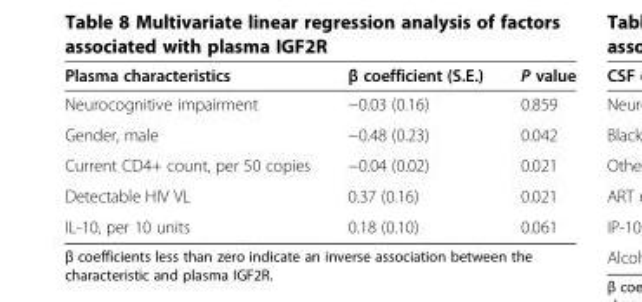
<table><thead><tr><td>Plasma characteristics</td><td>β coefficient (S.E.)</td><td>P value</td></tr></thead><tbody><tr><td>Neurocognitive impairment</td><td>−0.03 (0.16)</td><td>0.859</td></tr><tr><td>Gender, male</td><td>−0.48 (0.23)</td><td>0.042</td></tr><tr><td>Current CD4+ count, per 50 copies</td><td>−0.04 (0.02)</td><td>0.021</td></tr><tr><td>Detectable HIV VL</td><td>0.37 (0.16)</td><td>0.021</td></tr><tr><td>IL-10, per 10 units</td><td>0.18 (0.10)</td><td>0.061</td></tr></tbody></table>